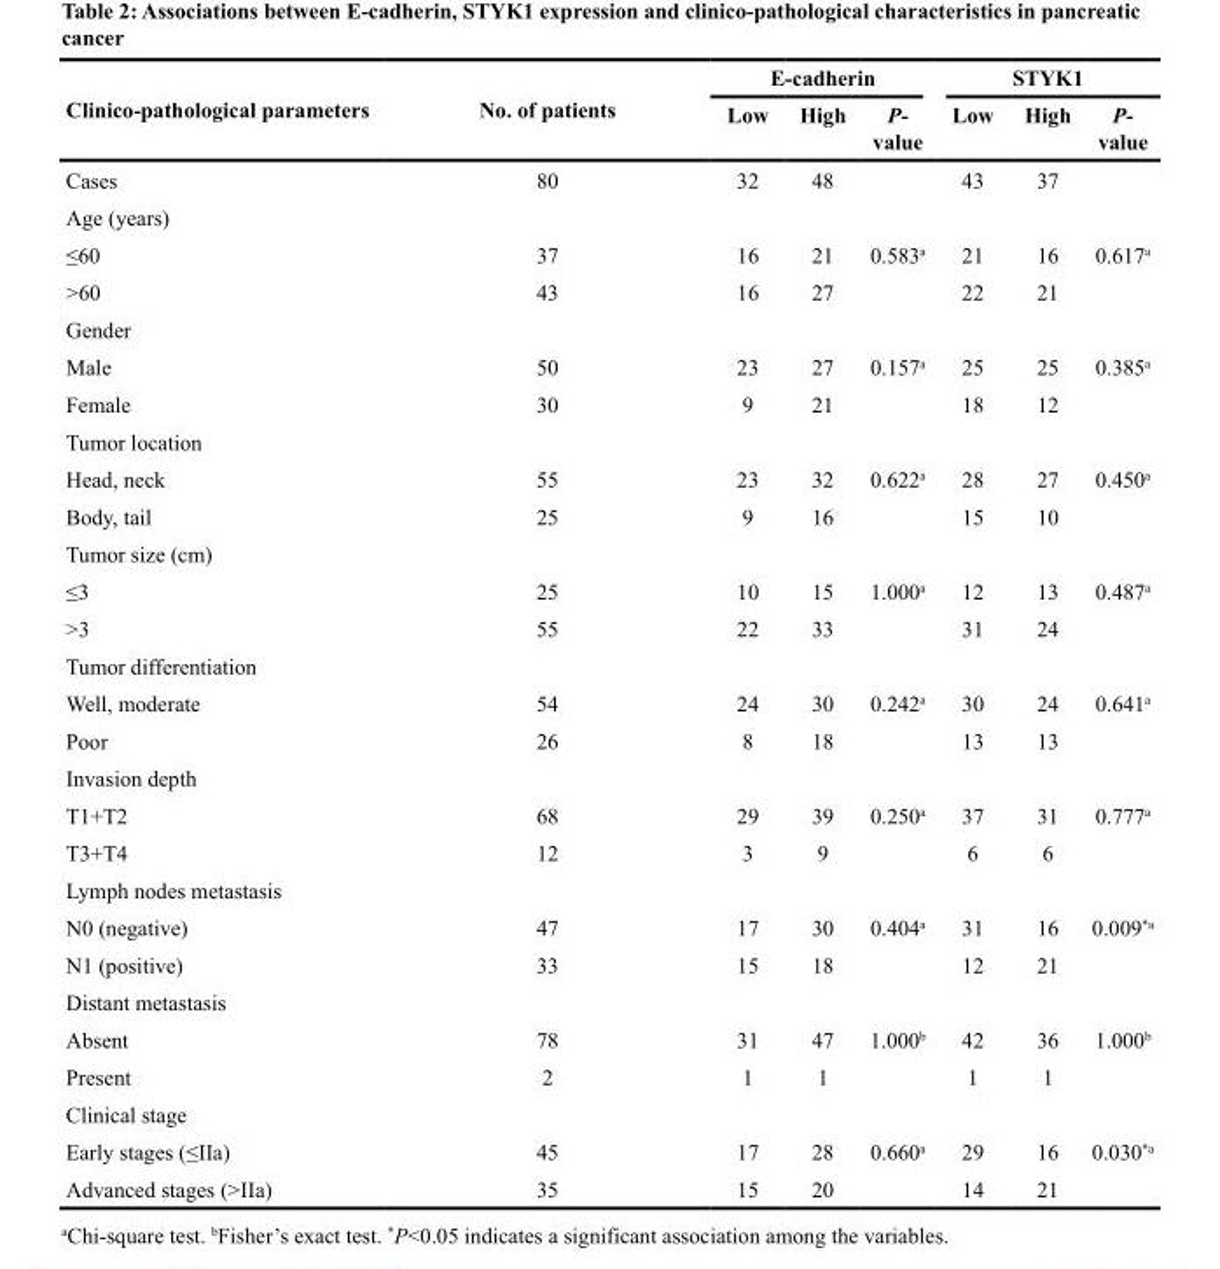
<table><thead><tr><td rowspan="2">Clinico-pathological parameters</td><td rowspan="2">No. of patients</td><td colspan="3">E-cadherin</td><td colspan="3">STYK1</td></tr><tr><td>Low</td><td>High</td><td>P- value</td><td>Low</td><td>High</td><td>P- value</td></tr></thead><tbody><tr><td>Cases</td><td>80</td><td>32</td><td>48</td><td></td><td>43</td><td>37</td><td></td></tr><tr><td colspan="8">Age (years)</td></tr><tr><td>≤60</td><td>37</td><td>16</td><td>21</td><td>0.583<sup>a</sup></td><td>21</td><td>16</td><td>0.617<sup>a</sup></td></tr><tr><td>&gt;60</td><td>43</td><td>16</td><td>27</td><td></td><td>22</td><td>21</td><td></td></tr><tr><td colspan="8">Gender</td></tr><tr><td>Male</td><td>50</td><td>23</td><td>27</td><td>0.157<sup>a</sup></td><td>25</td><td>25</td><td>0.385<sup>a</sup></td></tr><tr><td>Female</td><td>30</td><td>9</td><td>21</td><td></td><td>18</td><td>12</td><td></td></tr><tr><td colspan="8">Tumor location</td></tr><tr><td>Head, neck</td><td>55</td><td>23</td><td>32</td><td>0.622<sup>a</sup></td><td>28</td><td>27</td><td>0.450<sup>a</sup></td></tr><tr><td>Body, tail</td><td>25</td><td>9</td><td>16</td><td></td><td>15</td><td>10</td><td></td></tr><tr><td colspan="8">Tumor size (cm)</td></tr><tr><td>≤3</td><td>25</td><td>10</td><td>15</td><td>1.000<sup>a</sup></td><td>12</td><td>13</td><td>0.487<sup>a</sup></td></tr><tr><td>&gt;3</td><td>55</td><td>22</td><td>33</td><td></td><td>31</td><td>24</td><td></td></tr><tr><td colspan="8">Tumor differentiation</td></tr><tr><td>Well, moderate</td><td>54</td><td>24</td><td>30</td><td>0.242<sup>a</sup></td><td>30</td><td>24</td><td>0.641<sup>a</sup></td></tr><tr><td>Poor</td><td>26</td><td>8</td><td>18</td><td></td><td>13</td><td>13</td><td></td></tr><tr><td colspan="8">Invasion depth</td></tr><tr><td>T1+T2</td><td>68</td><td>29</td><td>39</td><td>0.250<sup>a</sup></td><td>37</td><td>31</td><td>0.777<sup>a</sup></td></tr><tr><td>T3+T4</td><td>12</td><td>3</td><td>9</td><td></td><td>6</td><td>6</td><td></td></tr><tr><td colspan="8">Lymph nodes metastasis</td></tr><tr><td>N0 (negative)</td><td>47</td><td>17</td><td>30</td><td>0.404<sup>a</sup></td><td>31</td><td>16</td><td>0.009<sup>*a</sup></td></tr><tr><td>N1 (positive)</td><td>33</td><td>15</td><td>18</td><td></td><td>12</td><td>21</td><td></td></tr><tr><td colspan="8">Distant metastasis</td></tr><tr><td>Absent</td><td>78</td><td>31</td><td>47</td><td>1.000<sup>b</sup></td><td>42</td><td>36</td><td>1.000<sup>b</sup></td></tr><tr><td>Present</td><td>2</td><td>1</td><td>1</td><td></td><td>1</td><td>1</td><td></td></tr><tr><td colspan="8">Clinical stage</td></tr><tr><td>Early stages (≤IIa)</td><td>45</td><td>17</td><td>28</td><td>0.660<sup>a</sup></td><td>29</td><td>16</td><td>0.030<sup>*a</sup></td></tr><tr><td>Advanced stages (&gt;IIa)</td><td>35</td><td>15</td><td>20</td><td></td><td>14</td><td>21</td><td></td></tr></tbody></table>